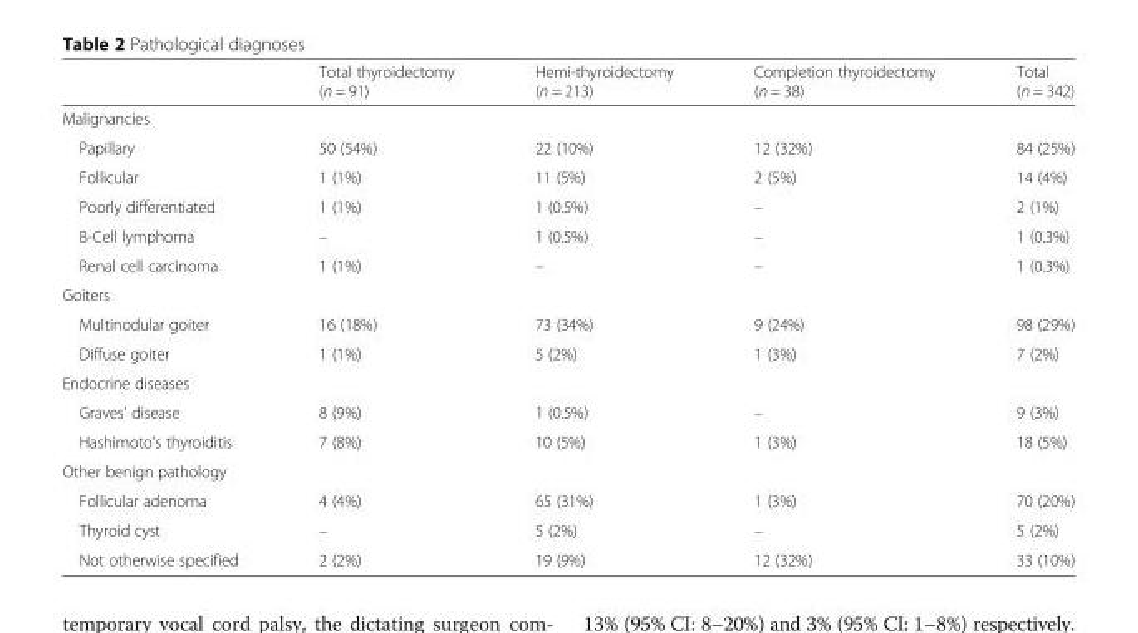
<table><thead><tr><td></td><td>Total thyroidectomy (n = 91)</td><td>Hemi-thyroidectomy (n = 213)</td><td>Completion thyroidectomy (n = 38)</td><td>Total (n = 342)</td></tr></thead><tbody><tr><td colspan="5">Malignancies</td></tr><tr><td>Papillary</td><td>50 (54%)</td><td>22 (10%)</td><td>12 (32%)</td><td>84 (25%)</td></tr><tr><td>Follicular</td><td>1 (1%)</td><td>11 (5%)</td><td>2 (5%)</td><td>14 (4%)</td></tr><tr><td>Poorly differentiated</td><td>1 (1%)</td><td>1 (0.5%)</td><td>–</td><td>2 (1%)</td></tr><tr><td>B-Cell lymphoma</td><td>–</td><td>1 (0.5%)</td><td>–</td><td>1 (0.3%)</td></tr><tr><td>Renal cell carcinoma</td><td>1 (1%)</td><td>–</td><td>–</td><td>1 (0.3%)</td></tr><tr><td colspan="5">Goiters</td></tr><tr><td>Multinodular goiter</td><td>16 (18%)</td><td>73 (34%)</td><td>9 (24%)</td><td>98 (29%)</td></tr><tr><td>Diffuse goiter</td><td>1 (1%)</td><td>5 (2%)</td><td>1 (3%)</td><td>7 (2%)</td></tr><tr><td colspan="5">Endocrine diseases</td></tr><tr><td>Graves’ disease</td><td>8 (9%)</td><td>1 (0.5%)</td><td>–</td><td>9 (3%)</td></tr><tr><td>Hashimoto’s thyroiditis</td><td>7 (8%)</td><td>10 (5%)</td><td>1 (3%)</td><td>18 (5%)</td></tr><tr><td colspan="5">Other benign pathology</td></tr><tr><td>Follicular adenoma</td><td>4 (4%)</td><td>65 (31%)</td><td>1 (3%)</td><td>70 (20%)</td></tr><tr><td>Thyroid cyst</td><td>–</td><td>5 (2%)</td><td>–</td><td>5 (2%)</td></tr><tr><td>Not otherwise specified</td><td>2 (2%)</td><td>19 (9%)</td><td>12 (32%)</td><td>33 (10%)</td></tr></tbody></table>